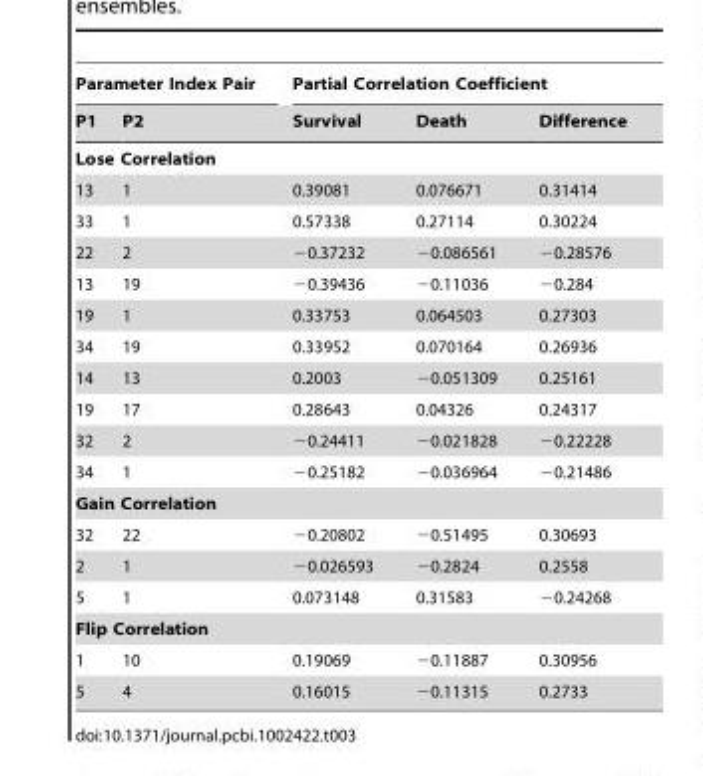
<table><thead><tr><td colspan="2">Parameter Index Pair</td><td colspan="3">Partial Correlation Coefficient</td></tr><tr><td>P1</td><td>P2</td><td>Survival</td><td>Death</td><td>Difference</td></tr></thead><tbody><tr><td colspan="5">Lose Correlation</td></tr><tr><td>13</td><td>1</td><td>0.39081</td><td>0.076671</td><td>0.31414</td></tr><tr><td>33</td><td>1</td><td>0.57338</td><td>0.27114</td><td>0.30224</td></tr><tr><td>22</td><td>2</td><td>−0.37232</td><td>−0.086561</td><td>−0.28576</td></tr><tr><td>13</td><td>19</td><td>−0.39436</td><td>−0.11036</td><td>−0.284</td></tr><tr><td>19</td><td>1</td><td>0.33753</td><td>0.064503</td><td>0.27303</td></tr><tr><td>34</td><td>19</td><td>0.33952</td><td>0.070164</td><td>0.26936</td></tr><tr><td>14</td><td>13</td><td>0.2003</td><td>−0.051309</td><td>0.25161</td></tr><tr><td>19</td><td>17</td><td>0.28643</td><td>0.04326</td><td>0.24317</td></tr><tr><td>32</td><td>2</td><td>−0.24411</td><td>−0.021828</td><td>−0.22228</td></tr><tr><td>34</td><td>1</td><td>−0.25182</td><td>−0.036964</td><td>−0.21486</td></tr><tr><td colspan="5">Gain Correlation</td></tr><tr><td>32</td><td>22</td><td>−0.20802</td><td>−0.51495</td><td>0.30693</td></tr><tr><td>2</td><td>1</td><td>−0.026593</td><td>−0.2824</td><td>0.2558</td></tr><tr><td>5</td><td>1</td><td>0.073148</td><td>0.31583</td><td>−0.24268</td></tr><tr><td colspan="5">Flip Correlation</td></tr><tr><td>1</td><td>10</td><td>0.19069</td><td>−0.11887</td><td>0.30956</td></tr><tr><td>5</td><td>4</td><td>0.16015</td><td>−0.11315</td><td>0.2733</td></tr></tbody></table>